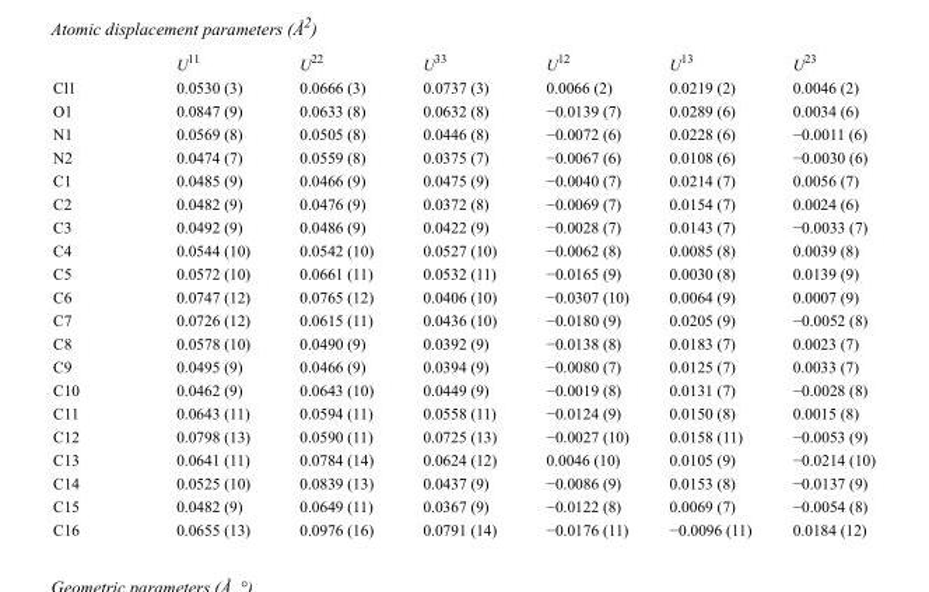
<table><thead><tr><td></td><td>U<sup>11</sup></td><td>U<sup>22</sup></td><td>U<sup>33</sup></td><td>U<sup>12</sup></td><td>U<sup>13</sup></td><td>U<sup>23</sup></td></tr></thead><tbody><tr><td>Cl1</td><td>0.0530 (3)</td><td>0.0666 (3)</td><td>0.0737 (3)</td><td>0.0066 (2)</td><td>0.0219 (2)</td><td>0.0046 (2)</td></tr><tr><td>O1</td><td>0.0847 (9)</td><td>0.0633 (8)</td><td>0.0632 (8)</td><td>−0.0139 (7)</td><td>0.0289 (6)</td><td>0.0034 (6)</td></tr><tr><td>N1</td><td>0.0569 (8)</td><td>0.0505 (8)</td><td>0.0446 (8)</td><td>−0.0072 (6)</td><td>0.0228 (6)</td><td>−0.0011 (6)</td></tr><tr><td>N2</td><td>0.0474 (7)</td><td>0.0559 (8)</td><td>0.0375 (7)</td><td>−0.0067 (6)</td><td>0.0108 (6)</td><td>−0.0030 (6)</td></tr><tr><td>C1</td><td>0.0485 (9)</td><td>0.0466 (9)</td><td>0.0475 (9)</td><td>−0.0040 (7)</td><td>0.0214 (7)</td><td>0.0056 (7)</td></tr><tr><td>C2</td><td>0.0482 (9)</td><td>0.0476 (9)</td><td>0.0372 (8)</td><td>−0.0069 (7)</td><td>0.0154 (7)</td><td>0.0024 (6)</td></tr><tr><td>C3</td><td>0.0492 (9)</td><td>0.0486 (9)</td><td>0.0422 (9)</td><td>−0.0028 (7)</td><td>0.0143 (7)</td><td>−0.0033 (7)</td></tr><tr><td>C4</td><td>0.0544 (10)</td><td>0.0542 (10)</td><td>0.0527 (10)</td><td>−0.0062 (8)</td><td>0.0085 (8)</td><td>0.0039 (8)</td></tr><tr><td>C5</td><td>0.0572 (10)</td><td>0.0661 (11)</td><td>0.0532 (11)</td><td>−0.0165 (9)</td><td>0.0030 (8)</td><td>0.0139 (9)</td></tr><tr><td>C6</td><td>0.0747 (12)</td><td>0.0765 (12)</td><td>0.0406 (10)</td><td>−0.0307 (10)</td><td>0.0064 (9)</td><td>0.0007 (9)</td></tr><tr><td>C7</td><td>0.0726 (12)</td><td>0.0615 (11)</td><td>0.0436 (10)</td><td>−0.0180 (9)</td><td>0.0205 (9)</td><td>−0.0052 (8)</td></tr><tr><td>C8</td><td>0.0578 (10)</td><td>0.0490 (9)</td><td>0.0392 (9)</td><td>−0.0138 (8)</td><td>0.0183 (7)</td><td>0.0023 (7)</td></tr><tr><td>C9</td><td>0.0495 (9)</td><td>0.0466 (9)</td><td>0.0394 (9)</td><td>−0.0080 (7)</td><td>0.0125 (7)</td><td>0.0033 (7)</td></tr><tr><td>C10</td><td>0.0462 (9)</td><td>0.0643 (10)</td><td>0.0449 (9)</td><td>−0.0019 (8)</td><td>0.0131 (7)</td><td>−0.0028 (8)</td></tr><tr><td>C11</td><td>0.0643 (11)</td><td>0.0594 (11)</td><td>0.0558 (11)</td><td>−0.0124 (9)</td><td>0.0150 (8)</td><td>0.0015 (8)</td></tr><tr><td>C12</td><td>0.0798 (13)</td><td>0.0590 (11)</td><td>0.0725 (13)</td><td>−0.0027 (10)</td><td>0.0158 (11)</td><td>−0.0053 (9)</td></tr><tr><td>C13</td><td>0.0641 (11)</td><td>0.0784 (14)</td><td>0.0624 (12)</td><td>0.0046 (10)</td><td>0.0105 (9)</td><td>−0.0214 (10)</td></tr><tr><td>C14</td><td>0.0525 (10)</td><td>0.0839 (13)</td><td>0.0437 (9)</td><td>−0.0086 (9)</td><td>0.0153 (8)</td><td>−0.0137 (9)</td></tr><tr><td>C15</td><td>0.0482 (9)</td><td>0.0649 (11)</td><td>0.0367 (9)</td><td>−0.0122 (8)</td><td>0.0069 (7)</td><td>−0.0054 (8)</td></tr><tr><td>C16</td><td>0.0655 (13)</td><td>0.0976 (16)</td><td>0.0791 (14)</td><td>−0.0176 (11)</td><td>−0.0096 (11)</td><td>0.0184 (12)</td></tr></tbody></table>